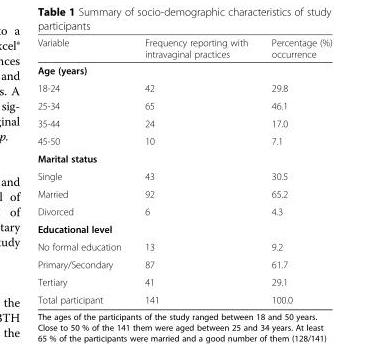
<table><thead><tr><td>Variable</td><td>Frequency reporting with intravaginal practices</td><td>Percentage (%) occurrence</td></tr></thead><tbody><tr><td colspan="3">Age (years)</td></tr><tr><td>18-24</td><td>42</td><td>29.8</td></tr><tr><td>25-34</td><td>65</td><td>46.1</td></tr><tr><td>35-44</td><td>24</td><td>17.0</td></tr><tr><td>45-50</td><td>10</td><td>7.1</td></tr><tr><td colspan="3">Marital status</td></tr><tr><td>Single</td><td>43</td><td>30.5</td></tr><tr><td>Married</td><td>92</td><td>65.2</td></tr><tr><td>Divorced</td><td>6</td><td>4.3</td></tr><tr><td colspan="3">Educational level</td></tr><tr><td>No formal education</td><td>13</td><td>9.2</td></tr><tr><td>Primary/Secondary</td><td>87</td><td>61.7</td></tr><tr><td>Tertiary</td><td>41</td><td>29.1</td></tr><tr><td>Total participant</td><td>141</td><td>100.0</td></tr></tbody></table>